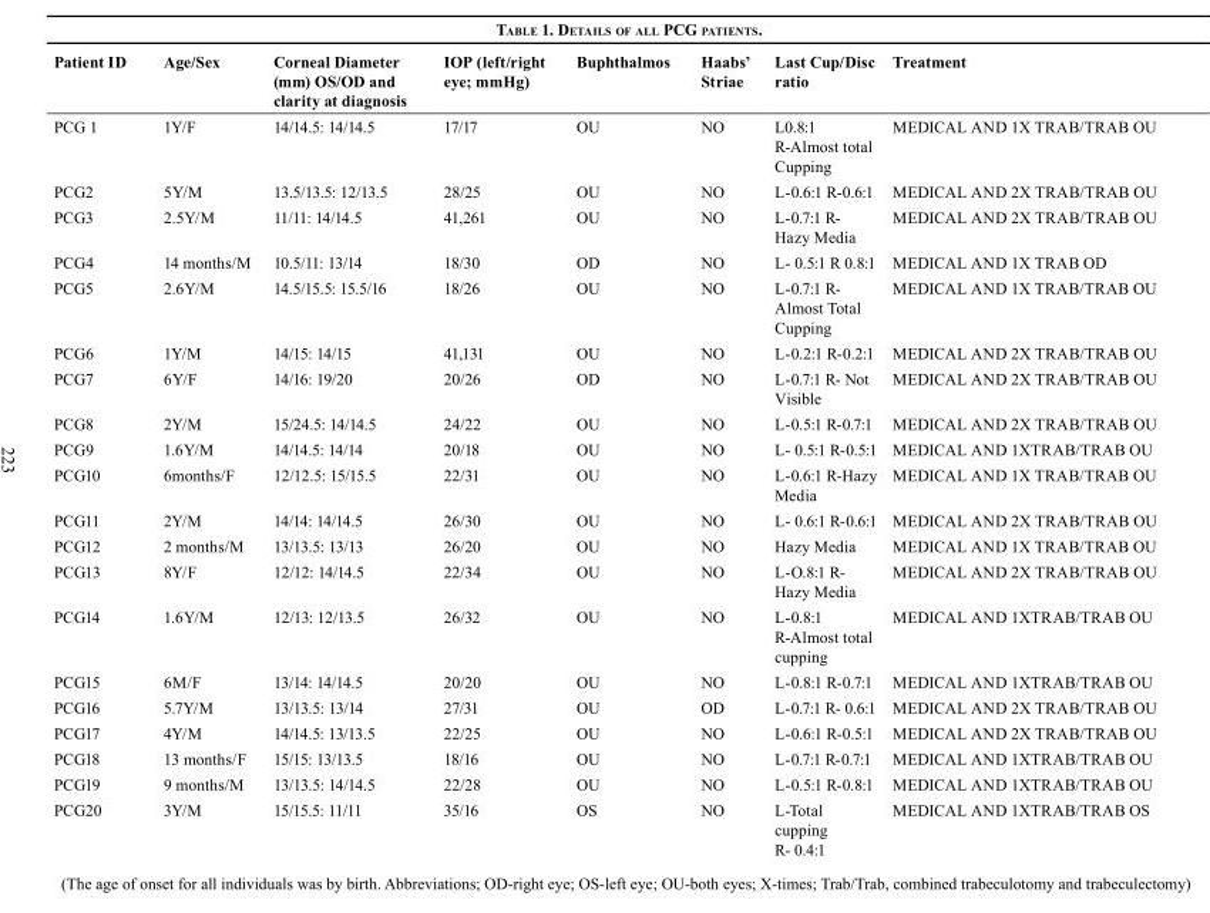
<table><thead><tr><td>Patient ID</td><td>Age/Sex</td><td>Corneal Diameter (mm) OS/OD and clarity at diagnosis</td><td>IOP (left/right eye; mmHg)</td><td>Buphthalmos</td><td>Haabs’ Striae</td><td>Last Cup/Disc ratio</td><td>Treatment</td></tr></thead><tbody><tr><td>PCG 1</td><td>1Y/F</td><td>14/14.5: 14/14.5</td><td>17/17</td><td>OU</td><td>NO</td><td>L0.8:1 R-Almost total Cupping</td><td>MEDICAL AND 1X TRAB/TRAB OU</td></tr><tr><td>PCG2</td><td>5Y/M</td><td>13.5/13.5: 12/13.5</td><td>28/25</td><td>OU</td><td>NO</td><td>L-0.6:1 R-0.6:1</td><td>MEDICAL AND 2X TRAB/TRAB OU</td></tr><tr><td>PCG3</td><td>2.5Y/M</td><td>11/11: 14/14.5</td><td>41,261</td><td>OU</td><td>NO</td><td>L-0.7:1 R- Hazy Media</td><td>MEDICAL AND 2X TRAB/TRAB OU</td></tr><tr><td>PCG4</td><td>14 months/M</td><td>10.5/11: 13/14</td><td>18/30</td><td>OD</td><td>NO</td><td>L- 0.5:1 R 0.8:1</td><td>MEDICAL AND 1X TRAB OD</td></tr><tr><td>PCG5</td><td>2.6Y/M</td><td>14.5/15.5: 15.5/16</td><td>18/26</td><td>OU</td><td>NO</td><td>L-0.7:1 R- Almost Total Cupping</td><td>MEDICAL AND 1X TRAB/TRAB OU</td></tr><tr><td>PCG6</td><td>1Y/M</td><td>14/15: 14/15</td><td>41,131</td><td>OU</td><td>NO</td><td>L-0.2:1 R-0.2:1</td><td>MEDICAL AND 2X TRAB/TRAB OU</td></tr><tr><td>PCG7</td><td>6Y/F</td><td>14/16: 19/20</td><td>20/26</td><td>OD</td><td>NO</td><td>L-0.7:1 R- Not Visible</td><td>MEDICAL AND 2X TRAB/TRAB OU</td></tr><tr><td>PCG8</td><td>2Y/M</td><td>15/24.5: 14/14.5</td><td>24/22</td><td>OU</td><td>NO</td><td>L-0.5:1 R-0.7:1</td><td>MEDICAL AND 2X TRAB/TRAB OU</td></tr><tr><td>PCG9</td><td>1.6Y/M</td><td>14/14.5: 14/14</td><td>20/18</td><td>OU</td><td>NO</td><td>L- 0.5:1 R-0.5:1</td><td>MEDICAL AND 1XTRAB/TRAB OU</td></tr><tr><td>PCG10</td><td>6months/F</td><td>12/12.5: 15/15.5</td><td>22/31</td><td>OU</td><td>NO</td><td>L-0.6:1 R-Hazy Media</td><td>MEDICAL AND 1X TRAB/TRAB OU</td></tr><tr><td>PCG11</td><td>2Y/M</td><td>14/14: 14/14.5</td><td>26/30</td><td>OU</td><td>NO</td><td>L- 0.6:1 R-0.6:1</td><td>MEDICAL AND 2X TRAB/TRAB OU</td></tr><tr><td>PCG12</td><td>2 months/M</td><td>13/13.5: 13/13</td><td>26/20</td><td>OU</td><td>NO</td><td>Hazy Media</td><td>MEDICAL AND 1X TRAB/TRAB OU</td></tr><tr><td>PCG13</td><td>8Y/F</td><td>12/12: 14/14.5</td><td>22/34</td><td>OU</td><td>NO</td><td>L-O.8:1 R- Hazy Media</td><td>MEDICAL AND 2X TRAB/TRAB OU</td></tr><tr><td>PCG14</td><td>1.6Y/M</td><td>12/13: 12/13.5</td><td>26/32</td><td>OU</td><td>NO</td><td>L-0.8:1 R-Almost total cupping</td><td>MEDICAL AND 1XTRAB/TRAB OU</td></tr><tr><td>PCG15</td><td>6M/F</td><td>13/14: 14/14.5</td><td>20/20</td><td>OU</td><td>NO</td><td>L-0.8:1 R-0.7:1</td><td>MEDICAL AND 1XTRAB/TRAB OU</td></tr><tr><td>PCG16</td><td>5.7Y/M</td><td>13/13.5: 13/14</td><td>27/31</td><td>OU</td><td>OD</td><td>L-0.7:1 R- 0.6:1</td><td>MEDICAL AND 2X TRAB/TRAB OU</td></tr><tr><td>PCG17</td><td>4Y/M</td><td>14/14.5: 13/13.5</td><td>22/25</td><td>OU</td><td>NO</td><td>L-0.6:1 R-0.5:1</td><td>MEDICAL AND 2X TRAB/TRAB OU</td></tr><tr><td>PCG18</td><td>13 months/F</td><td>15/15: 13/13.5</td><td>18/16</td><td>OU</td><td>NO</td><td>L-0.7:1 R-0.7:1</td><td>MEDICAL AND 1XTRAB/TRAB OU</td></tr><tr><td>PCG19</td><td>9 months/M</td><td>13/13.5: 14/14.5</td><td>22/28</td><td>OU</td><td>NO</td><td>L-0.5:1 R-0.8:1</td><td>MEDICAL AND 1XTRAB/TRAB OU</td></tr><tr><td>PCG20</td><td>3Y/M</td><td>15/15.5: 11/11</td><td>35/16</td><td>OS</td><td>NO</td><td>L-Total cupping R- 0.4:1</td><td>MEDICAL AND 1XTRAB/TRAB OS</td></tr></tbody></table>